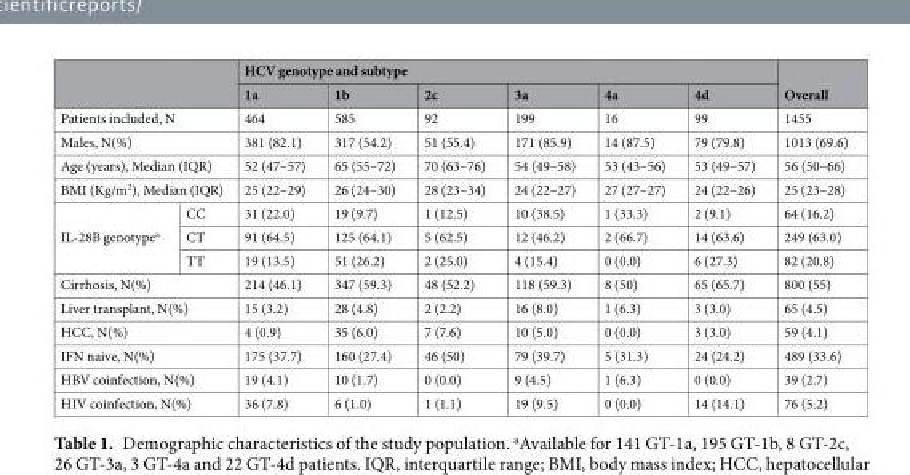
<table><thead><tr><td rowspan="2"></td><td rowspan="2"></td><td colspan="6">HCV genotype and subtype</td><td rowspan="2">Overall</td></tr><tr><td>1a</td><td>1b</td><td>2c</td><td>3a</td><td>4a</td><td>4d</td></tr></thead><tbody><tr><td colspan="2">Patients included, N</td><td>464</td><td>585</td><td>92</td><td>199</td><td>16</td><td>99</td><td>1455</td></tr><tr><td colspan="2">Males, N(%)</td><td>381 (82.1)</td><td>317 (54.2)</td><td>51 (55.4)</td><td>171 (85.9)</td><td>14 (87.5)</td><td>79 (79.8)</td><td>1013 (69.6)</td></tr><tr><td colspan="2">Age (years), Median (IQR)</td><td>52 (47–57)</td><td>65 (55–72)</td><td>70 (63–76)</td><td>54 (49–58)</td><td>53 (43–56)</td><td>53 (49–57)</td><td>56 (50–66)</td></tr><tr><td colspan="2">BMI (Kg/m<sup>2</sup>), Median (IQR)</td><td>25 (22–29)</td><td>26 (24–30)</td><td>28 (23–34)</td><td>24 (22–27)</td><td>27 (27–27)</td><td>24 (22–26)</td><td>25 (23–28)</td></tr><tr><td rowspan="3">IL-28B genotype<sup>a</sup></td><td>CC</td><td>31 (22.0)</td><td>19 (9.7)</td><td>1 (12.5)</td><td>10 (38.5)</td><td>1 (33.3)</td><td>2 (9.1)</td><td>64 (16.2)</td></tr><tr><td>CT</td><td>91 (64.5)</td><td>125 (64.1)</td><td>5 (62.5)</td><td>12 (46.2)</td><td>2 (66.7)</td><td>14 (63.6)</td><td>249 (63.0)</td></tr><tr><td>TT</td><td>19 (13.5)</td><td>51 (26.2)</td><td>2 (25.0)</td><td>4 (15.4)</td><td>0 (0.0)</td><td>6 (27.3)</td><td>82 (20.8)</td></tr><tr><td colspan="2">Cirrhosis, N(%)</td><td>214 (46.1)</td><td>347 (59.3)</td><td>48 (52.2)</td><td>118 (59.3)</td><td>8 (50)</td><td>65 (65.7)</td><td>800 (55)</td></tr><tr><td colspan="2">Liver transplant, N(%)</td><td>15 (3.2)</td><td>28 (4.8)</td><td>2 (2.2)</td><td>16 (8.0)</td><td>1 (6.3)</td><td>3 (3.0)</td><td>65 (4.5)</td></tr><tr><td colspan="2">HCC, N(%)</td><td>4 (0.9)</td><td>35 (6.0)</td><td>7 (7.6)</td><td>10 (5.0)</td><td>0 (0.0)</td><td>3 (3.0)</td><td>59 (4.1)</td></tr><tr><td colspan="2">IFN naive, N(%)</td><td>175 (37.7)</td><td>160 (27.4)</td><td>46 (50)</td><td>79 (39.7)</td><td>5 (31.3)</td><td>24 (24.2)</td><td>489 (33.6)</td></tr><tr><td colspan="2">HBV coinfection, N(%)</td><td>19 (4.1)</td><td>10 (1.7)</td><td>0 (0.0)</td><td>9 (4.5)</td><td>1 (6.3)</td><td>0 (0.0)</td><td>39 (2.7)</td></tr><tr><td colspan="2">HIV coinfection, N(%)</td><td>36 (7.8)</td><td>6 (1.0)</td><td>1 (1.1)</td><td>19 (9.5)</td><td>0 (0.0)</td><td>14 (14.1)</td><td>76 (5.2)</td></tr></tbody></table>